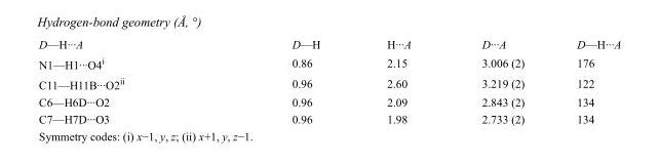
<table><tbody><tr><td>D—H···A</td><td>D—H</td><td>H···A</td><td>D···A</td><td>D—H···A</td></tr><tr><td>N1—H1···O4<sup>i</sup></td><td>0.86</td><td>2.15</td><td>3.006 (2)</td><td>176</td></tr><tr><td>C11—H11B···O2<sup>ii</sup></td><td>0.96</td><td>2.60</td><td>3.219 (2)</td><td>122</td></tr><tr><td>C6—H6D···O2</td><td>0.96</td><td>2.09</td><td>2.843 (2)</td><td>134</td></tr><tr><td>C7—H7D···O3</td><td>0.96</td><td>1.98</td><td>2.733 (2)</td><td>134</td></tr></tbody></table>